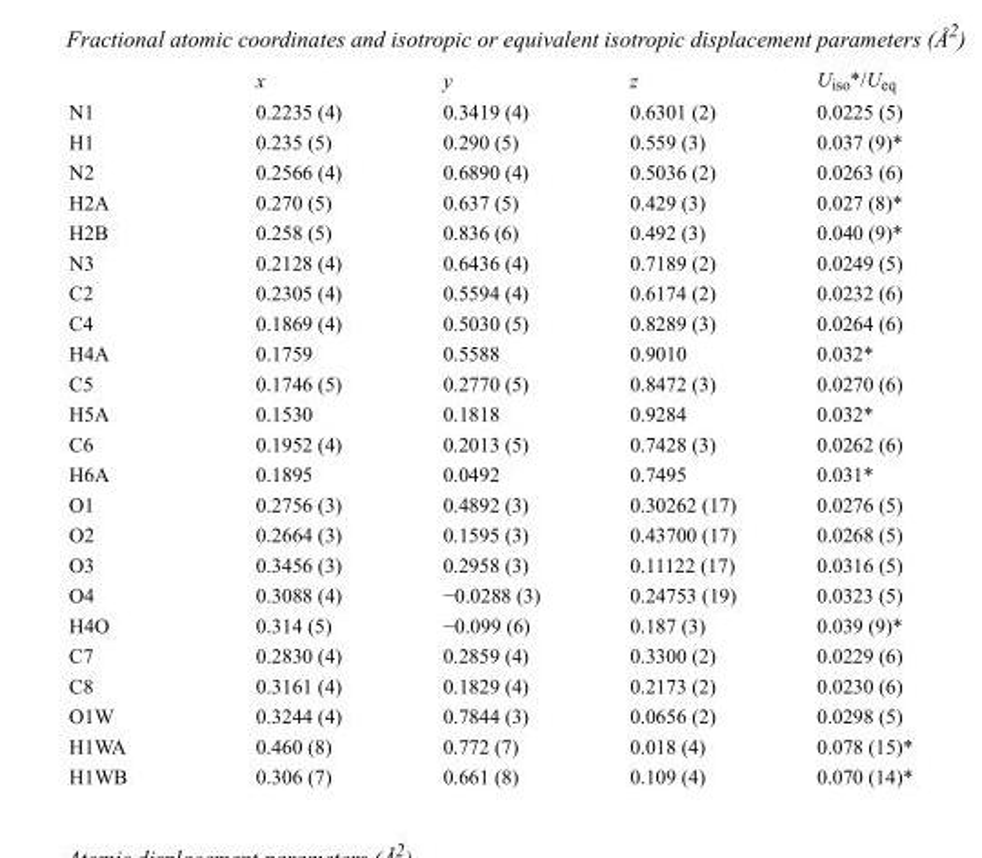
<table><thead><tr><td></td><td>x</td><td>y</td><td>z</td><td>U<sub>iso</sub>*/U<sub>eq</sub></td></tr></thead><tbody><tr><td>N1</td><td>0.2235 (4)</td><td>0.3419 (4)</td><td>0.6301 (2)</td><td>0.0225 (5)</td></tr><tr><td>H1</td><td>0.235 (5)</td><td>0.290 (5)</td><td>0.559 (3)</td><td>0.037 (9)*</td></tr><tr><td>N2</td><td>0.2566 (4)</td><td>0.6890 (4)</td><td>0.5036 (2)</td><td>0.0263 (6)</td></tr><tr><td>H2A</td><td>0.270 (5)</td><td>0.637 (5)</td><td>0.429 (3)</td><td>0.027 (8)*</td></tr><tr><td>H2B</td><td>0.258 (5)</td><td>0.836 (6)</td><td>0.492 (3)</td><td>0.040 (9)*</td></tr><tr><td>N3</td><td>0.2128 (4)</td><td>0.6436 (4)</td><td>0.7189 (2)</td><td>0.0249 (5)</td></tr><tr><td>C2</td><td>0.2305 (4)</td><td>0.5594 (4)</td><td>0.6174 (2)</td><td>0.0232 (6)</td></tr><tr><td>C4</td><td>0.1869 (4)</td><td>0.5030 (5)</td><td>0.8289 (3)</td><td>0.0264 (6)</td></tr><tr><td>H4A</td><td>0.1759</td><td>0.5588</td><td>0.9010</td><td>0.032*</td></tr><tr><td>C5</td><td>0.1746 (5)</td><td>0.2770 (5)</td><td>0.8472 (3)</td><td>0.0270 (6)</td></tr><tr><td>H5A</td><td>0.1530</td><td>0.1818</td><td>0.9284</td><td>0.032*</td></tr><tr><td>C6</td><td>0.1952 (4)</td><td>0.2013 (5)</td><td>0.7428 (3)</td><td>0.0262 (6)</td></tr><tr><td>H6A</td><td>0.1895</td><td>0.0492</td><td>0.7495</td><td>0.031*</td></tr><tr><td>O1</td><td>0.2756 (3)</td><td>0.4892 (3)</td><td>0.30262 (17)</td><td>0.0276 (5)</td></tr><tr><td>O2</td><td>0.2664 (3)</td><td>0.1595 (3)</td><td>0.43700 (17)</td><td>0.0268 (5)</td></tr><tr><td>O3</td><td>0.3456 (3)</td><td>0.2958 (3)</td><td>0.11122 (17)</td><td>0.0316 (5)</td></tr><tr><td>O4</td><td>0.3088 (4)</td><td>−0.0288 (3)</td><td>0.24753 (19)</td><td>0.0323 (5)</td></tr><tr><td>H4O</td><td>0.314 (5)</td><td>−0.099 (6)</td><td>0.187 (3)</td><td>0.039 (9)*</td></tr><tr><td>C7</td><td>0.2830 (4)</td><td>0.2859 (4)</td><td>0.3300 (2)</td><td>0.0229 (6)</td></tr><tr><td>C8</td><td>0.3161 (4)</td><td>0.1829 (4)</td><td>0.2173 (2)</td><td>0.0230 (6)</td></tr><tr><td>O1W</td><td>0.3244 (4)</td><td>0.7844 (3)</td><td>0.0656 (2)</td><td>0.0298 (5)</td></tr><tr><td>H1WA</td><td>0.460 (8)</td><td>0.772 (7)</td><td>0.018 (4)</td><td>0.078 (15)*</td></tr><tr><td>H1WB</td><td>0.306 (7)</td><td>0.661 (8)</td><td>0.109 (4)</td><td>0.070 (14)*</td></tr></tbody></table>